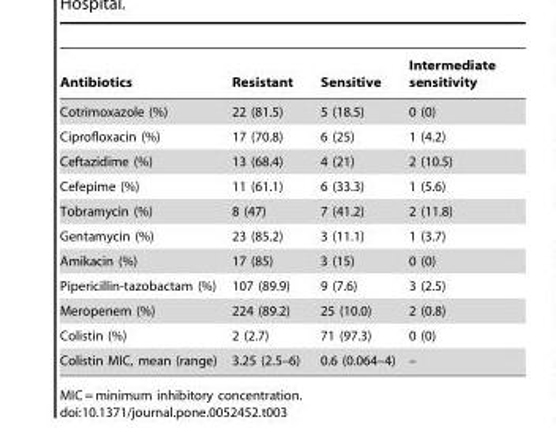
<table><thead><tr><td>Antibiotics</td><td>Resistant</td><td>Sensitive</td><td>Intermediate sensitivity</td></tr></thead><tbody><tr><td>Cotrimoxazole (%)</td><td>22 (81.5)</td><td>5 (18.5)</td><td>0 (0)</td></tr><tr><td>Ciprofloxacin (%)</td><td>17 (70.8)</td><td>6 (25)</td><td>1 (4.2)</td></tr><tr><td>Ceftazidime (%)</td><td>13 (68.4)</td><td>4 (21)</td><td>2 (10.5)</td></tr><tr><td>Cefepime (%)</td><td>11 (61.1)</td><td>6 (33.3)</td><td>1 (5.6)</td></tr><tr><td>Tobramycin (%)</td><td>8 (47)</td><td>7 (41.2)</td><td>2 (11.8)</td></tr><tr><td>Gentamycin (%)</td><td>23 (85.2)</td><td>3 (11.1)</td><td>1 (3.7)</td></tr><tr><td>Amikacin (%)</td><td>17 (85)</td><td>3 (15)</td><td>0 (0)</td></tr><tr><td>Pipericillin-tazobactam (%)</td><td>107 (89.9)</td><td>9 (7.6)</td><td>3 (2.5)</td></tr><tr><td>Meropenem (%)</td><td>224 (89.2)</td><td>25 (10.0)</td><td>2 (0.8)</td></tr><tr><td>Colistin (%)</td><td>2 (2.7)</td><td>71 (97.3)</td><td>0 (0)</td></tr><tr><td>Colistin MIC, mean (range)</td><td>3.25 (2.5–6)</td><td>0.6 (0.064–4)</td><td>–</td></tr></tbody></table>